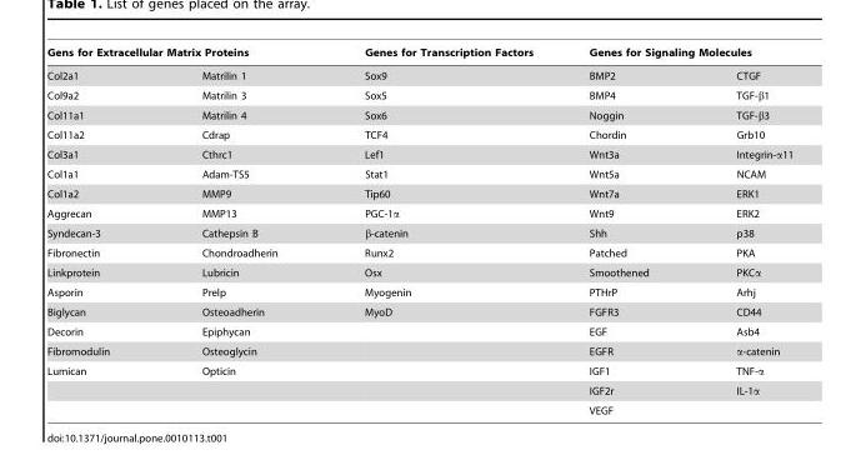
<table><thead><tr><td colspan="2">Gens for Extracellular Matrix Proteins</td><td rowspan="2">Genes for Transcription Factors Sox9</td><td colspan="2">Genes for Signaling Molecules</td></tr><tr><td>Col2a1</td><td>Matrilin 1</td><td>BMP2</td><td>CTGF</td></tr></thead><tbody><tr><td>Col9a2</td><td>Matrilin 3</td><td>Sox5</td><td>BMP4</td><td>TGF-β1</td></tr><tr><td>Col11a1</td><td>Matrilin 4</td><td>Sox6</td><td>Noggin</td><td>TGF-β3</td></tr><tr><td>Col11a2</td><td>Cdrap</td><td>TCF4</td><td>Chordin</td><td>Grb10</td></tr><tr><td>Col3a1</td><td>Cthrc1</td><td>Lef1</td><td>Wnt3a</td><td>Integrin-α11</td></tr><tr><td>Col1a1</td><td>Adam-TS5</td><td>Stat1</td><td>Wnt5a</td><td>NCAM</td></tr><tr><td>Col1a2</td><td>MMP9</td><td>Tip60</td><td>Wnt7a</td><td>ERK1</td></tr><tr><td>Aggrecan</td><td>MMP13</td><td>PGC-1α</td><td>Wnt9</td><td>ERK2</td></tr><tr><td>Syndecan-3</td><td>Cathepsin B</td><td>β-catenin</td><td>Shh</td><td>p38</td></tr><tr><td>Fibronectin</td><td>Chondroadherin</td><td>Runx2</td><td>Patched</td><td>PKA</td></tr><tr><td>Linkprotein</td><td>Lubricin</td><td>Osx</td><td>Smoothened</td><td>PKCα</td></tr><tr><td>Asporin</td><td>Prelp</td><td>Myogenin</td><td>PTHrP</td><td>Arhj</td></tr><tr><td>Biglycan</td><td>Osteoadherin</td><td>MyoD</td><td>FGFR3</td><td>CD44</td></tr><tr><td>Decorin</td><td>Epiphycan</td><td></td><td>EGF</td><td>Asb4</td></tr><tr><td>Fibromodulin</td><td>Osteoglycin</td><td></td><td>EGFR</td><td>α-catenin</td></tr><tr><td rowspan="3">Lumican</td><td>Opticin</td><td></td><td>IGF1</td><td>TNF-α</td></tr><tr><td></td><td></td><td>IGF2r</td><td>IL-1α</td></tr><tr><td></td><td></td><td>VEGF</td><td></td></tr></tbody></table>